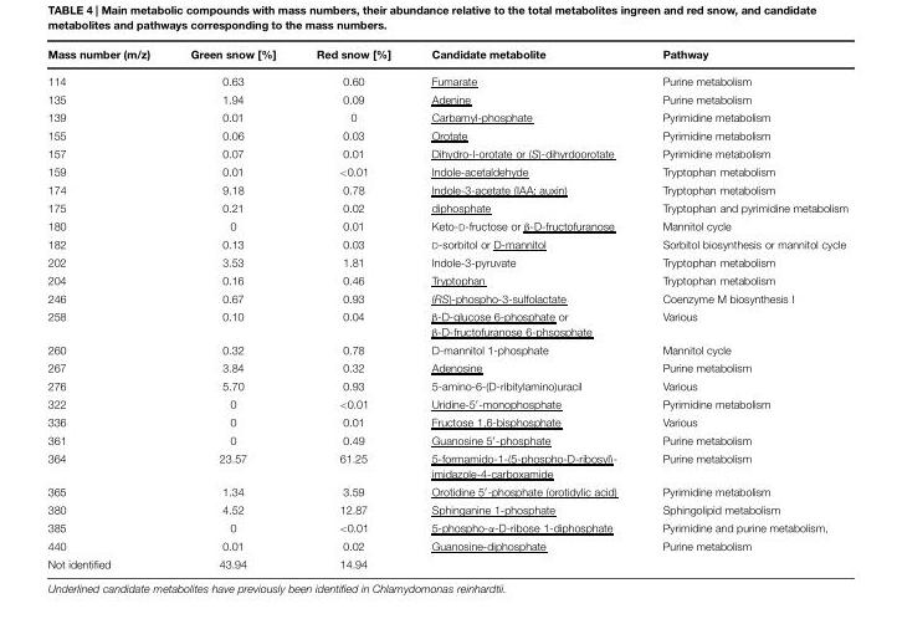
<table><thead><tr><td>Mass number (m/z)</td><td>Green snow [%]</td><td>Red snow [%]</td><td>Candidate metabolite</td><td>Pathway</td></tr></thead><tbody><tr><td>114</td><td>0.63</td><td>0.60</td><td>Fumarate</td><td>Purine metabolism</td></tr><tr><td>135</td><td>1.94</td><td>0.09</td><td>Adenine</td><td>Purine metabolism</td></tr><tr><td>139</td><td>0.01</td><td>0</td><td>Carbamyl-phosphate</td><td>Pyrimidine metabolism</td></tr><tr><td>155</td><td>0.06</td><td>0.03</td><td>Orotate</td><td>Pyrimidine metabolism</td></tr><tr><td>157</td><td>0.07</td><td>0.01</td><td>Dihydro-l-orotate or (S)-dihyrdoorotate</td><td>Pyrimidine metabolism</td></tr><tr><td>159</td><td>0.01</td><td>&lt;0.01</td><td>Indole-acetaldehyde</td><td>Tryptophan metabolism</td></tr><tr><td>174</td><td>9.18</td><td>0.78</td><td>Indole-3-acetate (IAA; auxin)</td><td>Tryptophan metabolism</td></tr><tr><td>175</td><td>0.21</td><td>0.02</td><td>diphosphate</td><td>Tryptophan and pyrimidine metabolism</td></tr><tr><td>180</td><td>0</td><td>0.01</td><td>Keto-D-fructose or β-D-fructofuranose</td><td>Mannitol cycle</td></tr><tr><td>182</td><td>0.13</td><td>0.03</td><td>D-sorbitol or D-mannitol</td><td>Sorbitol biosynthesis or mannitol cycle</td></tr><tr><td>202</td><td>3.53</td><td>1.81</td><td>Indole-3-pyruvate</td><td>Tryptophan metabolism</td></tr><tr><td>204</td><td>0.16</td><td>0.46</td><td>Tryptophan</td><td>Tryptophan metabolism</td></tr><tr><td>246</td><td>0.67</td><td>0.93</td><td>(RS)-phospho-3-sulfolactate</td><td>Coenzyme M biosynthesis I</td></tr><tr><td>258</td><td>0.10</td><td>0.04</td><td>β-D-glucose 6-phosphate or β-D-fructofuranose 6-phsosphate</td><td>Various</td></tr><tr><td>260</td><td>0.32</td><td>0.78</td><td>D-mannitol 1-phosphate</td><td>Mannitol cycle</td></tr><tr><td>267</td><td>3.84</td><td>0.32</td><td>Adenosine</td><td>Purine metabolism</td></tr><tr><td>276</td><td>5.70</td><td>0.93</td><td>5-amino-6-(D-ribitylamino)uracil</td><td>Various</td></tr><tr><td>322</td><td>0</td><td>&lt;0.01</td><td>Uridine-5′-monophosphate</td><td>Pyrimidine metabolism</td></tr><tr><td>336</td><td>0</td><td>0.01</td><td>Fructose 1,6-bisphosphate</td><td>Various</td></tr><tr><td>361</td><td>0</td><td>0.49</td><td>Guanosine 5′-phosphate</td><td>Purine metabolism</td></tr><tr><td>364</td><td>23.57</td><td>61.25</td><td>5-formamido-1-(5-phospho-D-ribosyl)- imidazole-4-carboxamide</td><td>Purine metabolism</td></tr><tr><td>365</td><td>1.34</td><td>3.59</td><td>Orotidine 5′-phosphate (orotidylic acid)</td><td>Pyrimidine metabolism</td></tr><tr><td>380</td><td>4.52</td><td>12.87</td><td>Sphinganine 1-phosphate</td><td>Sphingolipid metabolism</td></tr><tr><td>385</td><td>0</td><td>&lt;0.01</td><td>5-phospho-α-D-ribose 1-diphosphate</td><td>Pyrimidine and purine metabolism,</td></tr><tr><td>440</td><td>0.01</td><td>0.02</td><td>Guanosine-diphosphate</td><td>Purine metabolism</td></tr><tr><td>Not identified</td><td>43.94</td><td>14.94</td><td></td><td></td></tr></tbody></table>